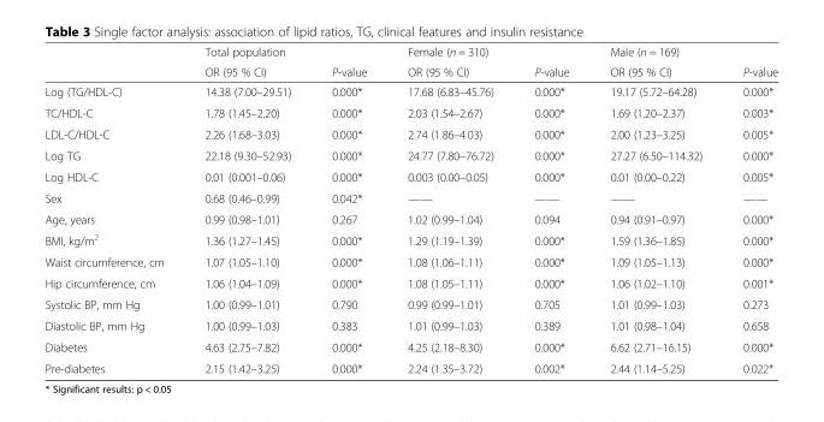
<table><thead><tr><td rowspan="2"></td><td rowspan="2">Total population OR (95 % CI)</td><td rowspan="2">P-value</td><td rowspan="2">Female (n = 310) OR (95 % CI)</td><td rowspan="2">P-value</td><td rowspan="2">Male (n = 169) OR (95 % CI)</td><td rowspan="2">P-value</td></tr><tr></tr></thead><tbody><tr><td>Log (TG/HDL-C)</td><td>14.38 (7.00–29.51)</td><td>0.000*</td><td>17.68 (6.83–45.76)</td><td>0.000*</td><td>19.17 (5.72–64.28)</td><td>0.000*</td></tr><tr><td>TC/HDL-C</td><td>1.78 (1.45–2.20)</td><td>0.000*</td><td>2.03 (1.54–2.67)</td><td>0.000*</td><td>1.69 (1.20–2.37)</td><td>0.003*</td></tr><tr><td>LDL-C/HDL-C</td><td>2.26 (1.68–3.03)</td><td>0.000*</td><td>2.74 (1.86–4.03)</td><td>0.000*</td><td>2.00 (1.23–3.25)</td><td>0.005*</td></tr><tr><td>Log TG</td><td>22.18 (9.30–52.93)</td><td>0.000*</td><td>24.77 (7.80–76.72)</td><td>0.000*</td><td>27.27 (6.50–114.32)</td><td>0.000*</td></tr><tr><td>Log HDL-C</td><td>0.01 (0.001–0.06)</td><td>0.000*</td><td>0.003 (0.00–0.05)</td><td>0.000*</td><td>0.01 (0.00–0.22)</td><td>0.005*</td></tr><tr><td>Sex</td><td>0.68 (0.46–0.99)</td><td>0.042*</td><td>——</td><td>——</td><td>——</td><td>——</td></tr><tr><td>Age, years</td><td>0.99 (0.98–1.01)</td><td>0.267</td><td>1.02 (0.99–1.04)</td><td>0.094</td><td>0.94 (0.91–0.97)</td><td>0.000*</td></tr><tr><td>BMI, kg/m<sup>2</sup></td><td>1.36 (1.27–1.45)</td><td>0.000*</td><td>1.29 (1.19–1.39)</td><td>0.000*</td><td>1.59 (1.36–1.85)</td><td>0.000*</td></tr><tr><td>Waist circumference, cm</td><td>1.07 (1.05–1.10)</td><td>0.000*</td><td>1.08 (1.06–1.11)</td><td>0.000*</td><td>1.09 (1.05–1.13)</td><td>0.000*</td></tr><tr><td>Hip circumference, cm</td><td>1.06 (1.04–1.09)</td><td>0.000*</td><td>1.08 (1.05–1.11)</td><td>0.000*</td><td>1.06 (1.02–1.10)</td><td>0.001*</td></tr><tr><td>Systolic BP, mm Hg</td><td>1.00 (0.99–1.01)</td><td>0.790</td><td>0.99 (0.99–1.01)</td><td>0.705</td><td>1.01 (0.99–1.03)</td><td>0.273</td></tr><tr><td>Diastolic BP, mm Hg</td><td>1.00 (0.99–1.03)</td><td>0.383</td><td>1.01 (0.99–1.03)</td><td>0.389</td><td>1.01 (0.98–1.04)</td><td>0.658</td></tr><tr><td>Diabetes</td><td>4.63 (2.75–7.82)</td><td>0.000*</td><td>4.25 (2.18–8.30)</td><td>0.000*</td><td>6.62 (2.71–16.15)</td><td>0.000*</td></tr><tr><td>Pre-diabetes</td><td>2.15 (1.42–3.25)</td><td>0.000*</td><td>2.24 (1.35–3.72)</td><td>0.002*</td><td>2.44 (1.14–5.25)</td><td>0.022*</td></tr></tbody></table>